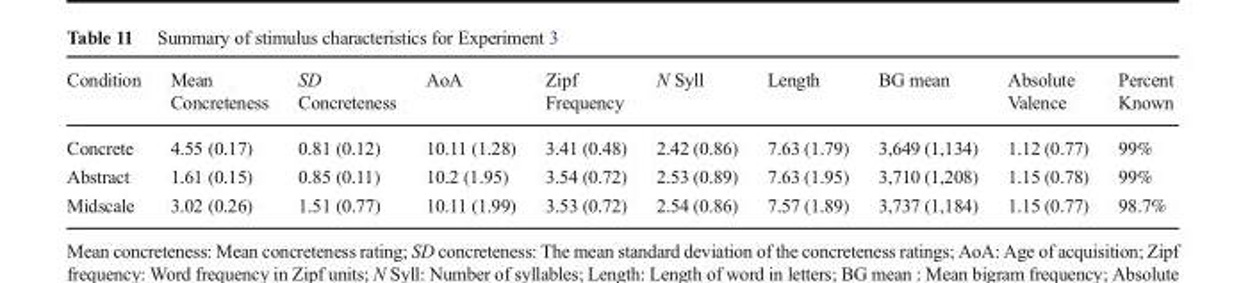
<table><thead><tr><td>Condition</td><td>Mean Concreteness</td><td>SD Concreteness</td><td>AoA</td><td>Zipf Frequency</td><td>N Syll</td><td>Length</td><td>BG mean</td><td>Absolute Valence</td><td>Percent Known</td></tr></thead><tbody><tr><td>Concrete</td><td>4.55 (0.17)</td><td>0.81 (0.12)</td><td>10.11 (1.28)</td><td>3.41 (0.48)</td><td>2.42 (0.86)</td><td>7.63 (1.79)</td><td>3,649 (1,134)</td><td>1.12 (0.77)</td><td>99%</td></tr><tr><td>Abstract</td><td>1.61 (0.15)</td><td>0.85 (0.11)</td><td>10.2 (1.95)</td><td>3.54 (0.72)</td><td>2.53 (0.89)</td><td>7.63 (1.95)</td><td>3,710 (1,208)</td><td>1.15 (0.78)</td><td>99%</td></tr><tr><td>Midscale</td><td>3.02 (0.26)</td><td>1.51 (0.77)</td><td>10.11 (1.99)</td><td>3.53 (0.72)</td><td>2.54 (0.86)</td><td>7.57 (1.89)</td><td>3,737 (1,184)</td><td>1.15 (0.77)</td><td>98.7%</td></tr></tbody></table>